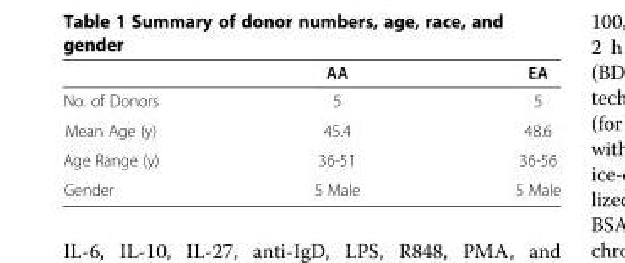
<table><thead><tr><td></td><td>AA</td><td>EA</td></tr></thead><tbody><tr><td>No. of Donors</td><td>5</td><td>5</td></tr><tr><td>Mean Age (y)</td><td>45.4</td><td>48.6</td></tr><tr><td>Age Range (y)</td><td>36-51</td><td>36-56</td></tr><tr><td>Gender</td><td>5 Male</td><td>5 Male</td></tr></tbody></table>